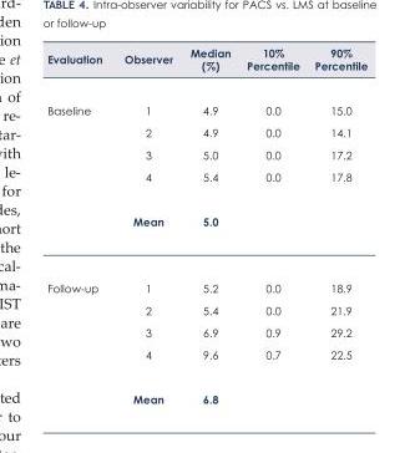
<table><thead><tr><td>Evaluation</td><td>Observer</td><td>Median (%)</td><td>10% Percentile</td><td>90% Percentile</td></tr></thead><tbody><tr><td rowspan="5">Baseline</td><td>1</td><td>4.9</td><td>0.0</td><td>15.0</td></tr><tr><td>2</td><td>4.9</td><td>0.0</td><td>14.1</td></tr><tr><td>3</td><td>5.0</td><td>0.0</td><td>17.2</td></tr><tr><td>4</td><td>5.4</td><td>0.0</td><td>17.8</td></tr><tr><td>Mean</td><td>5.0</td><td></td><td></td></tr><tr><td rowspan="5">Follow-up</td><td>1</td><td>5.2</td><td>0.0</td><td>18.9</td></tr><tr><td>2</td><td>5.4</td><td>0.0</td><td>21.9</td></tr><tr><td>3</td><td>6.9</td><td>0.9</td><td>29.2</td></tr><tr><td>4</td><td>9.6</td><td>0.7</td><td>22.5</td></tr><tr><td>Mean</td><td>6.8</td><td></td><td></td></tr></tbody></table>